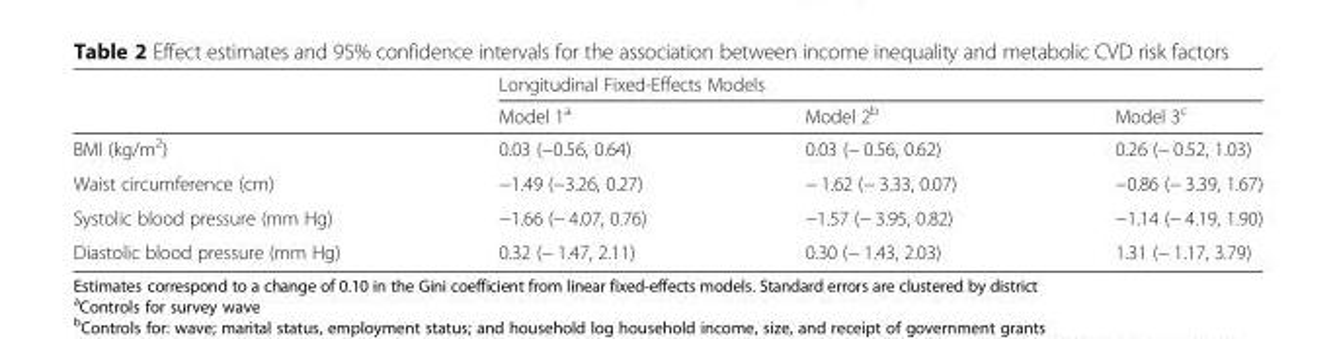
<table><thead><tr><td rowspan="2"></td><td colspan="3">Longitudinal Fixed-Effects Models</td></tr><tr><td>Model 1<sup>a</sup></td><td>Model 2<sup>b</sup></td><td>Model 3<sup>c</sup></td></tr></thead><tbody><tr><td>BMI (kg/m<sup>2</sup>)</td><td>0.03 (−0.56, 0.64)</td><td>0.03 (− 0.56, 0.62)</td><td>0.26 (− 0.52, 1.03)</td></tr><tr><td>Waist circumference (cm)</td><td>−1.49 (−3.26, 0.27)</td><td>− 1.62 (− 3.33, 0.07)</td><td>−0.86 (− 3.39, 1.67)</td></tr><tr><td>Systolic blood pressure (mm Hg)</td><td>−1.66 (− 4.07, 0.76)</td><td>−1.57 (− 3.95, 0.82)</td><td>−1.14 (− 4.19, 1.90)</td></tr><tr><td>Diastolic blood pressure (mm Hg)</td><td>0.32 (− 1.47, 2.11)</td><td>0.30 (− 1.43, 2.03)</td><td>1.31 (− 1.17, 3.79)</td></tr></tbody></table>